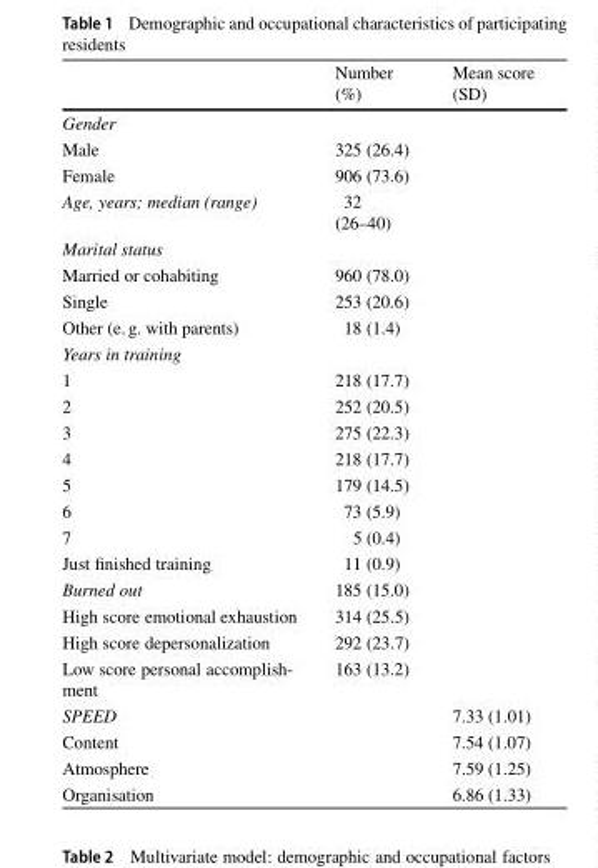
<table><thead><tr><td></td><td>Number (%)</td><td>Mean score (SD)</td></tr></thead><tbody><tr><td colspan="3">Gender</td></tr><tr><td>Male</td><td>325 (26.4)</td><td></td></tr><tr><td>Female</td><td>906 (73.6)</td><td></td></tr><tr><td>Age, years; median (range)</td><td>32 (26–40)</td><td></td></tr><tr><td colspan="3">Marital status</td></tr><tr><td>Married or cohabiting</td><td>960 (78.0)</td><td></td></tr><tr><td>Single</td><td>253 (20.6)</td><td></td></tr><tr><td>Other (e.g. with parents)</td><td>18 (1.4)</td><td></td></tr><tr><td colspan="3">Years in training</td></tr><tr><td>1</td><td>218 (17.7)</td><td></td></tr><tr><td>2</td><td>252 (20.5)</td><td></td></tr><tr><td>3</td><td>275 (22.3)</td><td></td></tr><tr><td>4</td><td>218 (17.7)</td><td></td></tr><tr><td>5</td><td>179 (14.5)</td><td></td></tr><tr><td>6</td><td>73 (5.9)</td><td></td></tr><tr><td>7</td><td>5 (0.4)</td><td></td></tr><tr><td>Just finished training</td><td>11 (0.9)</td><td></td></tr><tr><td>Burned out</td><td>185 (15.0)</td><td></td></tr><tr><td>High score emotional exhaustion</td><td>314 (25.5)</td><td></td></tr><tr><td>High score depersonalization</td><td>292 (23.7)</td><td></td></tr><tr><td>Low score personal accomplish- ment</td><td>163 (13.2)</td><td></td></tr><tr><td>SPEED</td><td></td><td>7.33 (1.01)</td></tr><tr><td>Content</td><td></td><td>7.54 (1.07)</td></tr><tr><td>Atmosphere</td><td></td><td>7.59 (1.25)</td></tr><tr><td>Organisation</td><td></td><td>6.86 (1.33)</td></tr></tbody></table>